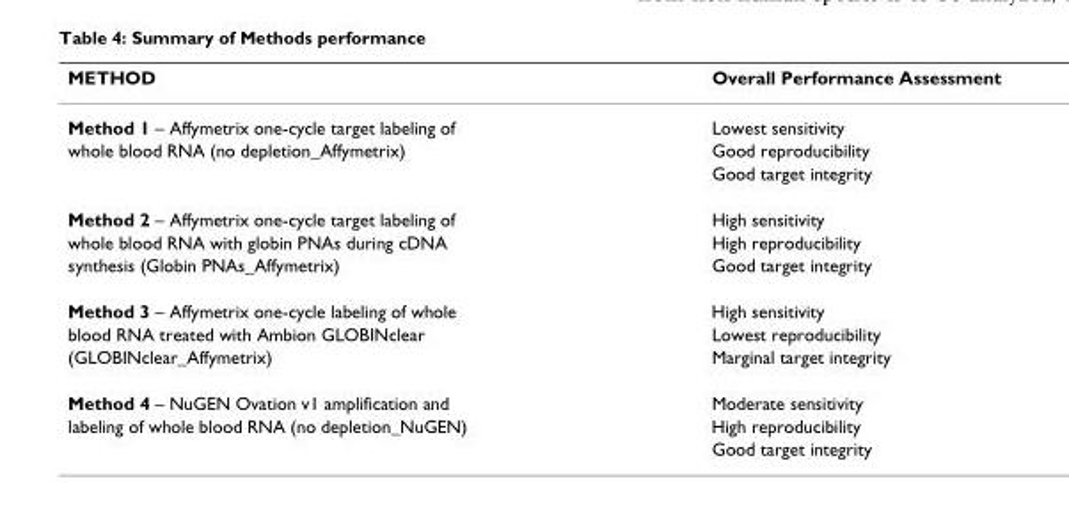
<table><thead><tr><td>METHOD</td><td>Overall Performance Assessment</td></tr></thead><tbody><tr><td>Method 1 – Affymetrix one-cycle target labeling of</td><td>Lowest sensitivity</td></tr><tr><td rowspan="2">whole blood RNA (no depletion_Affymetrix)</td><td>Good reproducibility</td></tr><tr><td>Good target integrity</td></tr><tr><td>Method 2 – Affymetrix one-cycle target labeling of</td><td>High sensitivity</td></tr><tr><td>whole blood RNA with globin PNAs during cDNA</td><td>High reproducibility</td></tr><tr><td>synthesis (Globin PNAs_Affymetrix)</td><td>Good target integrity</td></tr><tr><td>Method 3 – Affymetrix one-cycle labeling of whole</td><td>High sensitivity</td></tr><tr><td>blood RNA treated with Ambion GLOBINclear</td><td>Lowest reproducibility</td></tr><tr><td>(GLOBINclear_Affymetrix)</td><td>Marginal target integrity</td></tr><tr><td>Method 4 – NuGEN Ovation v1 amplification and</td><td>Moderate sensitivity</td></tr><tr><td rowspan="2">labeling of whole blood RNA (no depletion_NuGEN)</td><td>High reproducibility</td></tr><tr><td>Good target integrity</td></tr></tbody></table>